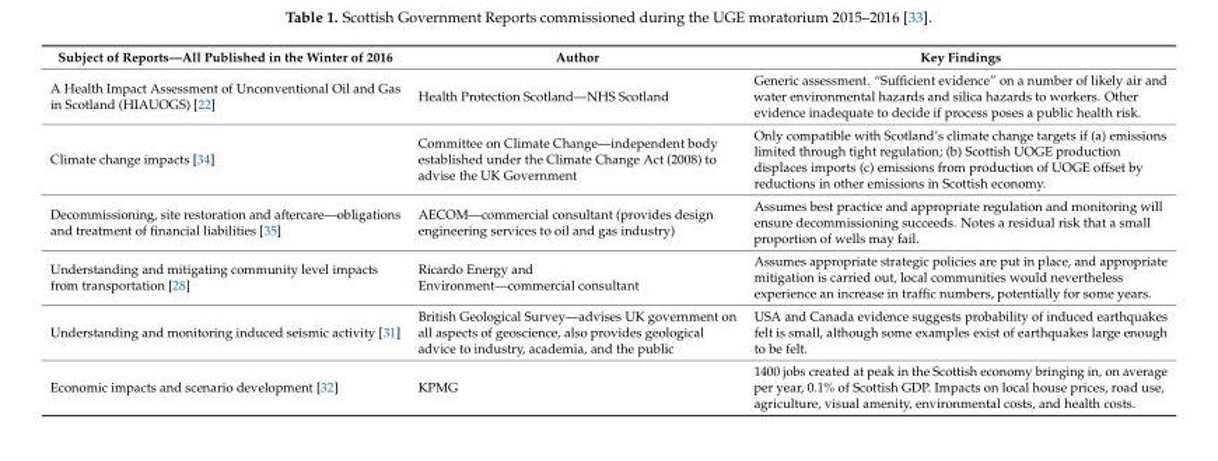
<table><thead><tr><td>Subject of Reports—All Published in the Winter of 2016</td><td>Author</td><td>Key Findings</td></tr></thead><tbody><tr><td>A Health Impact Assessment of Unconventional Oil and Gas in Scotland (HIAUOGS) [22]</td><td>Health Protection Scotland—NHS Scotland</td><td>Generic assessment. “Sufficient evidence” on a number of likely air and water environmental hazards and silica hazards to workers. Other evidence inadequate to decide if process poses a public health risk.</td></tr><tr><td>Climate change impacts [34]</td><td>Committee on Climate Change—independent body established under the Climate Change Act (2008) to advise the UK Government</td><td>Only compatible with Scotland’s climate change targets if (a) emissions limited through tight regulation; (b) Scottish UOGE production displaces imports (c) emissions from production of UOGE offset by reductions in other emissions in Scottish economy.</td></tr><tr><td>Decommissioning, site restoration and aftercare—obligations and treatment of financial liabilities [35]</td><td>AECOM—commercial consultant (provides design engineering services to oil and gas industry)</td><td>Assumes best practice and appropriate regulation and monitoring will ensure decommissioning succeeds. Notes a residual risk that a small proportion of wells may fail.</td></tr><tr><td>Understanding and mitigating community level impacts from transportation [28]</td><td>Ricardo Energy and Environment—commercial consultant</td><td>Assumes appropriate strategic policies are put in place, and appropriate mitigation is carried out, local communities would nevertheless experience an increase in traffic numbers, potentially for some years.</td></tr><tr><td>Understanding and monitoring induced seismic activity [31]</td><td>British Geological Survey—advises UK government on all aspects of geoscience, also provides geological advice to industry, academia, and the public</td><td>USA and Canada evidence suggests probability of induced earthquakes felt is small, although some examples exist of earthquakes large enough to be felt.</td></tr><tr><td>Economic impacts and scenario development [32]</td><td>KPMG</td><td>1400 jobs created at peak in the Scottish economy bringing in, on average per year, 0.1% of Scottish GDP. Impacts on local house prices, road use, agriculture, visual amenity, environmental costs, and health costs.</td></tr></tbody></table>